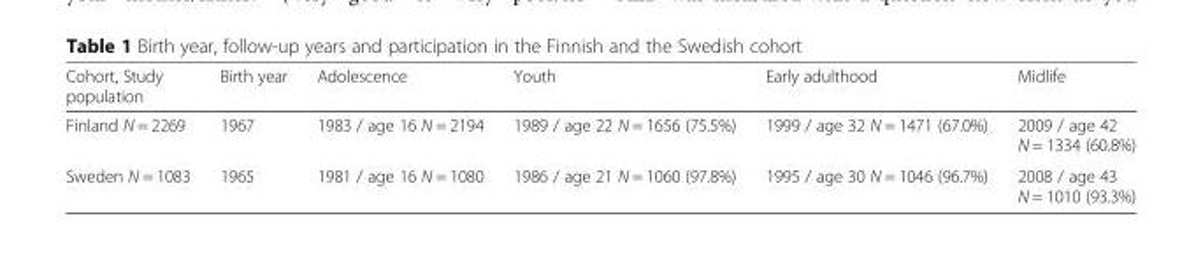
<table><thead><tr><td>Cohort, Study population</td><td>Birth year</td><td>Adolescence</td><td>Youth</td><td>Early adulthood</td><td>Midlife</td></tr></thead><tbody><tr><td>Finland N = 2269</td><td>1967</td><td>1983 / age 16 N = 2194</td><td>1989 / age 22 N = 1656 (75.5%)</td><td>1999 / age 32 N = 1471 (67.0%)</td><td>2009 / age 42 N = 1334 (60.8%)</td></tr><tr><td>Sweden N = 1083</td><td>1965</td><td>1981 / age 16 N = 1080</td><td>1986 / age 21 N = 1060 (97.8%)</td><td>1995 / age 30 N = 1046 (96.7%)</td><td>2008 / age 43 N = 1010 (93.3%)</td></tr></tbody></table>